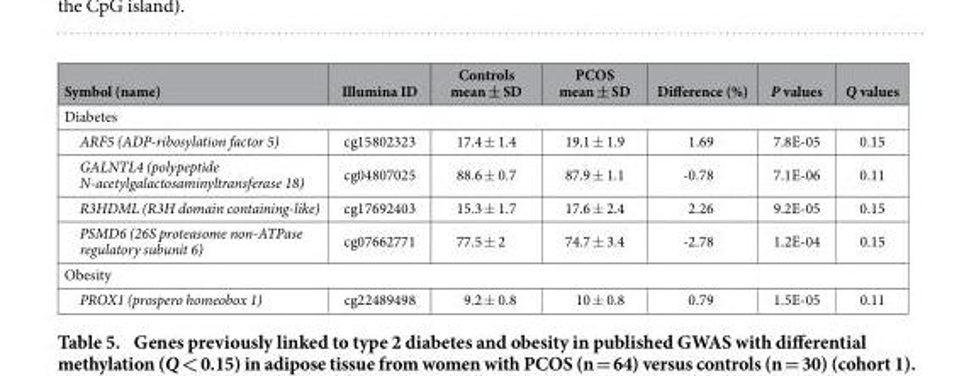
<table><thead><tr><td>Symbol (name)</td><td>Illumina ID</td><td>Controls mean ± SD</td><td>PCOS mean ± SD</td><td>Difference (%)</td><td>P values</td><td>Q values</td></tr></thead><tbody><tr><td colspan="7">Diabetes</td></tr><tr><td>ARF5 (ADP-ribosylation factor 5)</td><td>cg15802323</td><td>17.4 ± 1.4</td><td>19.1 ± 1.9</td><td>1.69</td><td>7.8E-05</td><td>0.15</td></tr><tr><td>GALNTL4 (polypeptide N-acetylgalactosaminyltransferase 18)</td><td>cg04807025</td><td>88.6 ± 0.7</td><td>87.9 ± 1.1</td><td>-0.78</td><td>7.1E-06</td><td>0.11</td></tr><tr><td>R3HDML (R3H domain containing-like)</td><td>cg17692403</td><td>15.3 ± 1.7</td><td>17.6 ± 2.4</td><td>2.26</td><td>9.2E-05</td><td>0.15</td></tr><tr><td>PSMD6 (26S proteasome non-ATPase regulatory subunit 6)</td><td>cg07662771</td><td>77.5 ± 2</td><td>74.7 ± 3.4</td><td>-2.78</td><td>1.2E-04</td><td>0.15</td></tr><tr><td colspan="7">Obesity</td></tr><tr><td>PROX1 (prospero homeobox 1)</td><td>cg22489498</td><td>9.2 ± 0.8</td><td>10 ± 0.8</td><td>0.79</td><td>1.5E-05</td><td>0.11</td></tr></tbody></table>